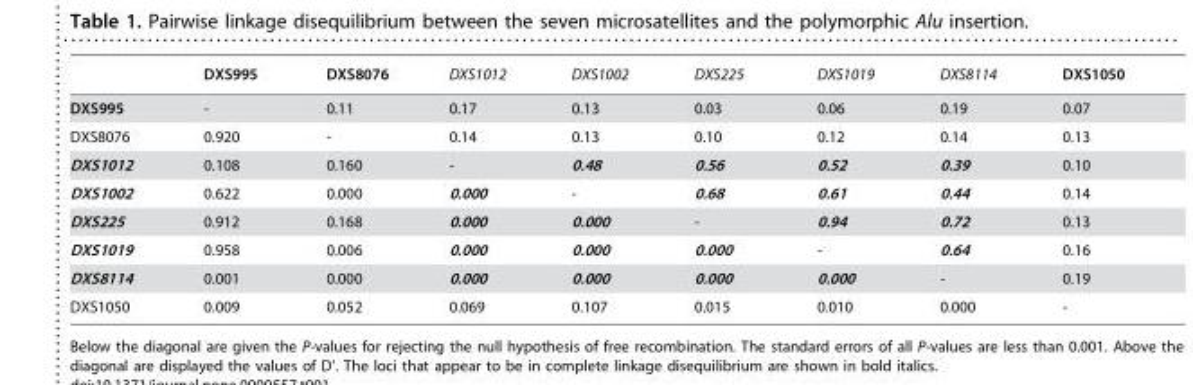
<table><thead><tr><td></td><td>DXS995</td><td>DXS8076</td><td>DXS1012</td><td>DXS1002</td><td>DXS225</td><td>DXS1019</td><td>DXS8114</td><td>DXS1050</td></tr></thead><tbody><tr><td>DXS995</td><td>-</td><td>0.11</td><td>0.17</td><td>0.13</td><td>0.03</td><td>0.06</td><td>0.19</td><td>0.07</td></tr><tr><td>DXS8076</td><td>0.920</td><td>-</td><td>0.14</td><td>0.13</td><td>0.10</td><td>0.12</td><td>0.14</td><td>0.13</td></tr><tr><td>DXS1012</td><td>0.108</td><td>0.160</td><td>-</td><td>0.48</td><td>0.56</td><td>0.52</td><td>0.39</td><td>0.10</td></tr><tr><td>DXS1002</td><td>0.622</td><td>0.000</td><td>0.000</td><td>-</td><td>0.68</td><td>0.61</td><td>0.44</td><td>0.14</td></tr><tr><td>DXS225</td><td>0.912</td><td>0.168</td><td>0.000</td><td>0.000</td><td>-</td><td>0.94</td><td>0.72</td><td>0.13</td></tr><tr><td>DXS1019</td><td>0.958</td><td>0.006</td><td>0.000</td><td>0.000</td><td>0.000</td><td>-</td><td>0.64</td><td>0.16</td></tr><tr><td>DXS8114</td><td>0.001</td><td>0.000</td><td>0.000</td><td>0.000</td><td>0.000</td><td>0.000</td><td>-</td><td>0.19</td></tr><tr><td>DXS1050</td><td>0.009</td><td>0.052</td><td>0.069</td><td>0.107</td><td>0.015</td><td>0.010</td><td>0.000</td><td>-</td></tr></tbody></table>